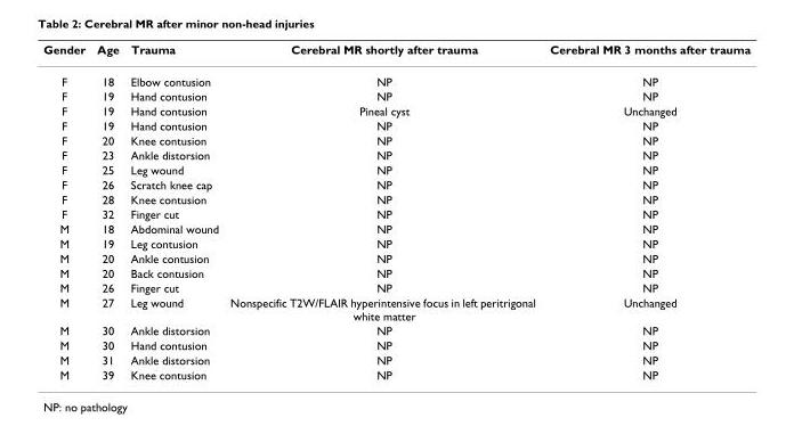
<table><thead><tr><td>Gender</td><td>Age</td><td>Trauma</td><td>Cerebral MR shortly after trauma</td><td>Cerebral MR 3 months after trauma</td></tr></thead><tbody><tr><td>F</td><td>18</td><td>Elbow contusion</td><td>NP</td><td>NP</td></tr><tr><td>F</td><td>19</td><td>Hand contusion</td><td>NP</td><td>NP</td></tr><tr><td>F</td><td>19</td><td>Hand contusion</td><td>Pineal cyst</td><td>Unchanged</td></tr><tr><td>F</td><td>19</td><td>Hand contusion</td><td>NP</td><td>NP</td></tr><tr><td>F</td><td>20</td><td>Knee contusion</td><td>NP</td><td>NP</td></tr><tr><td>F</td><td>23</td><td>Ankle distorsion</td><td>NP</td><td>NP</td></tr><tr><td>F</td><td>25</td><td>Leg wound</td><td>NP</td><td>NP</td></tr><tr><td>F</td><td>26</td><td>Scratch knee cap</td><td>NP</td><td>NP</td></tr><tr><td>F</td><td>28</td><td>Knee contusion</td><td>NP</td><td>NP</td></tr><tr><td>F</td><td>32</td><td>Finger cut</td><td>NP</td><td>NP</td></tr><tr><td>M</td><td>18</td><td>Abdominal wound</td><td>NP</td><td>NP</td></tr><tr><td>M</td><td>19</td><td>Leg contusion</td><td>NP</td><td>NP</td></tr><tr><td>M</td><td>20</td><td>Ankle contusion</td><td>NP</td><td>NP</td></tr><tr><td>M</td><td>20</td><td>Back contusion</td><td>NP</td><td>NP</td></tr><tr><td>M</td><td>26</td><td>Finger cut</td><td>NP</td><td>NP</td></tr><tr><td>M</td><td>27</td><td>Leg wound</td><td>Nonspecific T2W/FLAIR hyperintensive focus in left peritrigonal white matter</td><td>Unchanged</td></tr><tr><td>M</td><td>30</td><td>Ankle distorsion</td><td>NP</td><td>NP</td></tr><tr><td>M</td><td>30</td><td>Hand contusion</td><td>NP</td><td>NP</td></tr><tr><td>M</td><td>31</td><td>Ankle distorsion</td><td>NP</td><td>NP</td></tr><tr><td>M</td><td>39</td><td>Knee contusion</td><td>NP</td><td>NP</td></tr></tbody></table>